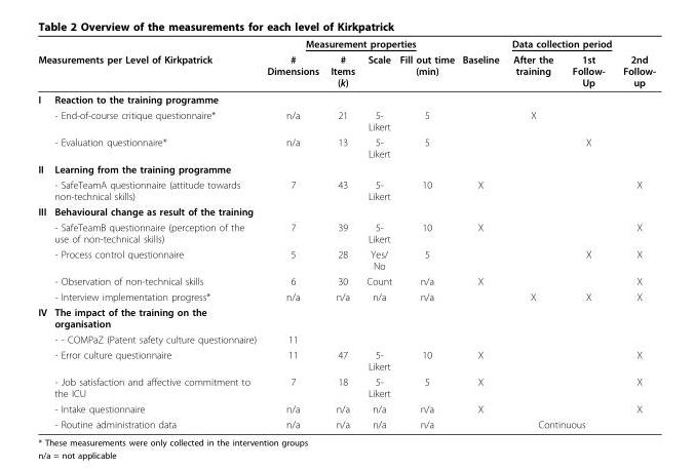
<table><thead><tr><td></td><td></td><td colspan="4">Measurement properties</td><td colspan="4">Data collection period</td></tr><tr><td colspan="2">Measurements per Level of Kirkpatrick</td><td># Dimensions</td><td># Items (k)</td><td>Scale</td><td>Fill out time (min)</td><td>Baseline</td><td>After the training</td><td>1st Follow- Up</td><td>2nd Follow- up</td></tr></thead><tbody><tr><td rowspan="3">I</td><td>Reaction to the training programme</td><td></td><td></td><td></td><td></td><td></td><td></td><td></td><td></td></tr><tr><td>- End-of-course critique questionnaire*</td><td>n/a</td><td>21</td><td>5- Likert</td><td>5</td><td></td><td>X</td><td></td><td></td></tr><tr><td>- Evaluation questionnaire*</td><td>n/a</td><td>13</td><td>5- Likert</td><td>5</td><td></td><td></td><td>X</td><td></td></tr><tr><td rowspan="2">II</td><td>Learning from the training programme</td><td></td><td></td><td></td><td></td><td></td><td></td><td></td><td></td></tr><tr><td>- SafeTeamA questionnaire (attitude towards non-technical skills)</td><td>7</td><td>43</td><td>5- Likert</td><td>10</td><td>X</td><td></td><td></td><td>X</td></tr><tr><td rowspan="5">III</td><td>Behavioural change as result of the training</td><td></td><td></td><td></td><td></td><td></td><td></td><td></td><td></td></tr><tr><td>- SafeTeamB questionnaire (perception of the use of non-technical skills)</td><td>7</td><td>39</td><td>5- Likert</td><td>10</td><td>X</td><td></td><td></td><td>X</td></tr><tr><td>- Process control questionnaire</td><td>5</td><td>28</td><td>Yes/ No</td><td>5</td><td></td><td></td><td>X</td><td>X</td></tr><tr><td>- Observation of non-technical skills</td><td>6</td><td>30</td><td>Count</td><td>n/a</td><td>X</td><td></td><td></td><td>X</td></tr><tr><td>- Interview implementation progress*</td><td>n/a</td><td>n/a</td><td>n/a</td><td>n/a</td><td></td><td>X</td><td>X</td><td>X</td></tr><tr><td rowspan="6">IV</td><td>The impact of the training on the organisation</td><td></td><td></td><td></td><td></td><td></td><td></td><td></td><td></td></tr><tr><td>- - COMPaZ (Patent safety culture questionnaire)</td><td>11</td><td></td><td></td><td></td><td></td><td></td><td></td><td></td></tr><tr><td>- Error culture questionnaire</td><td>11</td><td>47</td><td>5- Likert</td><td>10</td><td>X</td><td></td><td></td><td>X</td></tr><tr><td>- Job satisfaction and affective commitment to the ICU</td><td>7</td><td>18</td><td>5- Likert</td><td>5</td><td>X</td><td></td><td></td><td>X</td></tr><tr><td>- Intake questionnaire</td><td>n/a</td><td>n/a</td><td>n/a</td><td>n/a</td><td>X</td><td></td><td></td><td>X</td></tr><tr><td>- Routine administration data</td><td>n/a</td><td>n/a</td><td>n/a</td><td>n/a</td><td colspan="4">Continuous</td></tr></tbody></table>